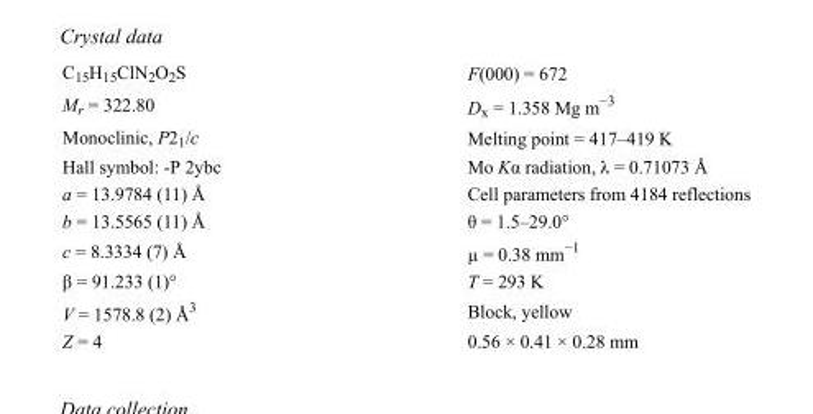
<table><tbody><tr><td>C<sub>15</sub>H<sub>15</sub>ClN<sub>2</sub>O<sub>2</sub>S</td><td>F(000) = 672</td></tr><tr><td>M<sub>r</sub> = 322.80</td><td>D<sub>x</sub> = 1.358 Mg m<sup>−3</sup></td></tr><tr><td>Monoclinic, P2<sub>1</sub>/c</td><td>Melting point = 417–419 K</td></tr><tr><td>Hall symbol: -P 2ybc</td><td>Mo Kα radiation, λ = 0.71073 Å</td></tr><tr><td>a = 13.9784 (11) Å</td><td>Cell parameters from 4184 reflections</td></tr><tr><td>b = 13.5565 (11) Å</td><td>θ = 1.5–29.0°</td></tr><tr><td>c = 8.3334 (7) Å</td><td>µ = 0.38 mm<sup>−1</sup></td></tr><tr><td>β = 91.233 (1)°</td><td>T = 293 K</td></tr><tr><td>V = 1578.8 (2) Å<sup>3</sup></td><td>Block, yellow</td></tr><tr><td>Z = 4</td><td>0.56 × 0.41 × 0.28 mm</td></tr></tbody></table>